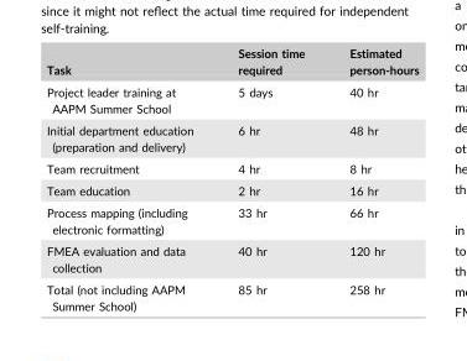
<table><thead><tr><td>Task</td><td>Session time required</td><td>Estimated person-hours</td></tr></thead><tbody><tr><td>Project leader training at AAPM Summer School</td><td>5 days</td><td>40 hr</td></tr><tr><td>Initial department education (preparation and delivery)</td><td>6 hr</td><td>48 hr</td></tr><tr><td>Team recruitment</td><td>4 hr</td><td>8 hr</td></tr><tr><td>Team education</td><td>2 hr</td><td>16 hr</td></tr><tr><td>Process mapping (including electronic formatting)</td><td>33 hr</td><td>66 hr</td></tr><tr><td>FMEA evaluation and data collection</td><td>40 hr</td><td>120 hr</td></tr><tr><td>Total (not including AAPM Summer School)</td><td>85 hr</td><td>258 hr</td></tr></tbody></table>